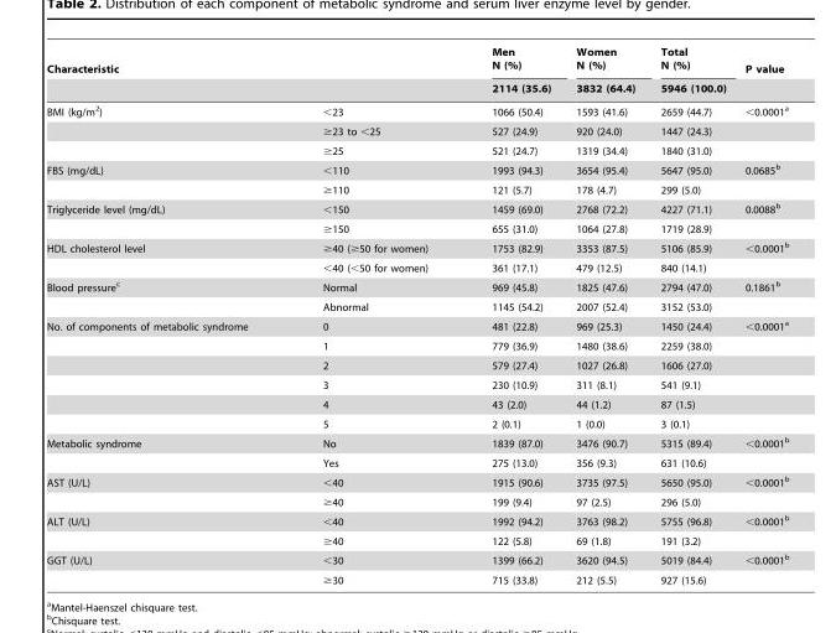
<table><thead><tr><td colspan="2">Characteristic</td><td rowspan="2">Men N (%) 2114 (35.6)</td><td rowspan="2">Women N (%) 3832 (64.4)</td><td rowspan="2">Total N (%) 5946 (100.0)</td><td rowspan="2">P value</td></tr><tr><td></td><td></td></tr></thead><tbody><tr><td rowspan="3">BMI (kg/m<sup>2</sup>)</td><td>&lt;23</td><td>1066 (50.4)</td><td>1593 (41.6)</td><td>2659 (44.7)</td><td>&lt;0.0001<sup>a</sup></td></tr><tr><td>≥23 to &lt;25</td><td>527 (24.9)</td><td>920 (24.0)</td><td>1447 (24.3)</td><td></td></tr><tr><td>≥25</td><td>521 (24.7)</td><td>1319 (34.4)</td><td>1840 (31.0)</td><td></td></tr><tr><td rowspan="2">FBS (mg/dL)</td><td>&lt;110</td><td>1993 (94.3)</td><td>3654 (95.4)</td><td>5647 (95.0)</td><td>0.0685<sup>b</sup></td></tr><tr><td>≥110</td><td>121 (5.7)</td><td>178 (4.7)</td><td>299 (5.0)</td><td></td></tr><tr><td rowspan="2">Triglyceride level (mg/dL)</td><td>&lt;150</td><td>1459 (69.0)</td><td>2768 (72.2)</td><td>4227 (71.1)</td><td>0.0088<sup>b</sup></td></tr><tr><td>≥150</td><td>655 (31.0)</td><td>1064 (27.8)</td><td>1719 (28.9)</td><td></td></tr><tr><td rowspan="2">HDL cholesterol level</td><td>≥40 (≥50 for women)</td><td>1753 (82.9)</td><td>3353 (87.5)</td><td>5106 (85.9)</td><td>&lt;0.0001<sup>b</sup></td></tr><tr><td>&lt;40 (&lt;50 for women)</td><td>361 (17.1)</td><td>479 (12.5)</td><td>840 (14.1)</td><td></td></tr><tr><td rowspan="2">Blood pressure<sup>c</sup></td><td>Normal</td><td>969 (45.8)</td><td>1825 (47.6)</td><td>2794 (47.0)</td><td>0.1861<sup>b</sup></td></tr><tr><td>Abnormal</td><td>1145 (54.2)</td><td>2007 (52.4)</td><td>3152 (53.0)</td><td></td></tr><tr><td rowspan="6">No. of components of metabolic syndrome</td><td>0</td><td>481 (22.8)</td><td>969 (25.3)</td><td>1450 (24.4)</td><td>&lt;0.0001<sup>a</sup></td></tr><tr><td>1</td><td>779 (36.9)</td><td>1480 (38.6)</td><td>2259 (38.0)</td><td></td></tr><tr><td>2</td><td>579 (27.4)</td><td>1027 (26.8)</td><td>1606 (27.0)</td><td></td></tr><tr><td>3</td><td>230 (10.9)</td><td>311 (8.1)</td><td>541 (9.1)</td><td></td></tr><tr><td>4</td><td>43 (2.0)</td><td>44 (1.2)</td><td>87 (1.5)</td><td></td></tr><tr><td>5</td><td>2 (0.1)</td><td>1 (0.0)</td><td>3 (0.1)</td><td></td></tr><tr><td rowspan="2">Metabolic syndrome</td><td>No</td><td>1839 (87.0)</td><td>3476 (90.7)</td><td>5315 (89.4)</td><td>&lt;0.0001<sup>b</sup></td></tr><tr><td>Yes</td><td>275 (13.0)</td><td>356 (9.3)</td><td>631 (10.6)</td><td></td></tr><tr><td rowspan="2">AST (U/L)</td><td>&lt;40</td><td>1915 (90.6)</td><td>3735 (97.5)</td><td>5650 (95.0)</td><td>&lt;0.0001<sup>b</sup></td></tr><tr><td>≥40</td><td>199 (9.4)</td><td>97 (2.5)</td><td>296 (5.0)</td><td></td></tr><tr><td rowspan="2">ALT (U/L)</td><td>&lt;40</td><td>1992 (94.2)</td><td>3763 (98.2)</td><td>5755 (96.8)</td><td>&lt;0.0001<sup>b</sup></td></tr><tr><td>≥40</td><td>122 (5.8)</td><td>69 (1.8)</td><td>191 (3.2)</td><td></td></tr><tr><td rowspan="2">GGT (U/L)</td><td>&lt;30</td><td>1399 (66.2)</td><td>3620 (94.5)</td><td>5019 (84.4)</td><td>&lt;0.0001<sup>b</sup></td></tr><tr><td>≥30</td><td>715 (33.8)</td><td>212 (5.5)</td><td>927 (15.6)</td><td></td></tr></tbody></table>